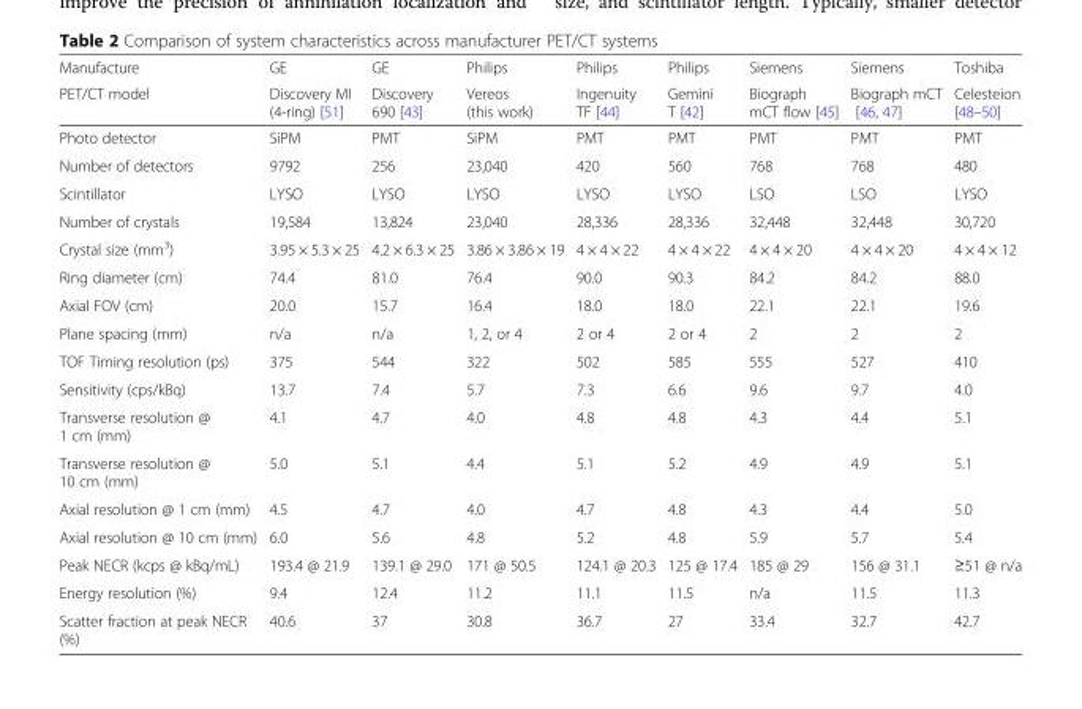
<table><thead><tr><td rowspan="2">Manufacture PET/CT model</td><td rowspan="2">GE Discovery MI (4-ring) [51]</td><td rowspan="2">GE Discovery 690 [43]</td><td rowspan="2">Philips Vereos (this work)</td><td rowspan="2">Philips Ingenuity TF [44]</td><td rowspan="2">Philips Gemini T [42]</td><td rowspan="2">Siemens Biograph mCT flow [45]</td><td rowspan="2">Siemens Biograph mCT [46, 47]</td><td rowspan="2">Toshiba Celesteion [48–50]</td></tr><tr></tr></thead><tbody><tr><td>Photo detector</td><td>SiPM</td><td>PMT</td><td>SiPM</td><td>PMT</td><td>PMT</td><td>PMT</td><td>PMT</td><td>PMT</td></tr><tr><td>Number of detectors</td><td>9792</td><td>256</td><td>23,040</td><td>420</td><td>560</td><td>768</td><td>768</td><td>480</td></tr><tr><td>Scintillator</td><td>LYSO</td><td>LYSO</td><td>LYSO</td><td>LYSO</td><td>LYSO</td><td>LSO</td><td>LSO</td><td>LYSO</td></tr><tr><td>Number of crystals</td><td>19,584</td><td>13,824</td><td>23,040</td><td>28,336</td><td>28,336</td><td>32,448</td><td>32,448</td><td>30,720</td></tr><tr><td>Crystal size (mm<sup>3</sup>)</td><td>3.95 × 5.3 × 25</td><td>4.2 × 6.3 × 25</td><td>3.86 × 3.86 × 19</td><td>4 × 4 × 22</td><td>4 × 4 × 22</td><td>4 × 4 × 20</td><td>4 × 4 × 20</td><td>4 × 4 × 12</td></tr><tr><td>Ring diameter (cm)</td><td>74.4</td><td>81.0</td><td>76.4</td><td>90.0</td><td>90.3</td><td>84.2</td><td>84.2</td><td>88.0</td></tr><tr><td>Axial FOV (cm)</td><td>20.0</td><td>15.7</td><td>16.4</td><td>18.0</td><td>18.0</td><td>22.1</td><td>22.1</td><td>19.6</td></tr><tr><td>Plane spacing (mm)</td><td>n/a</td><td>n/a</td><td>1, 2, or 4</td><td>2 or 4</td><td>2 or 4</td><td>2</td><td>2</td><td>2</td></tr><tr><td>TOF Timing resolution (ps)</td><td>375</td><td>544</td><td>322</td><td>502</td><td>585</td><td>555</td><td>527</td><td>410</td></tr><tr><td>Sensitivity (cps/kBq)</td><td>13.7</td><td>7.4</td><td>5.7</td><td>7.3</td><td>6.6</td><td>9.6</td><td>9.7</td><td>4.0</td></tr><tr><td>Transverse resolution @ 1 cm (mm)</td><td>4.1</td><td>4.7</td><td>4.0</td><td>4.8</td><td>4.8</td><td>4.3</td><td>4.4</td><td>5.1</td></tr><tr><td>Transverse resolution @ 10 cm (mm)</td><td>5.0</td><td>5.1</td><td>4.4</td><td>5.1</td><td>5.2</td><td>4.9</td><td>4.9</td><td>5.1</td></tr><tr><td>Axial resolution @ 1 cm (mm)</td><td>4.5</td><td>4.7</td><td>4.0</td><td>4.7</td><td>4.8</td><td>4.3</td><td>4.4</td><td>5.0</td></tr><tr><td>Axial resolution @ 10 cm (mm)</td><td>6.0</td><td>5.6</td><td>4.8</td><td>5.2</td><td>4.8</td><td>5.9</td><td>5.7</td><td>5.4</td></tr><tr><td>Peak NECR (kcps @ kBq/mL)</td><td>193.4 @ 21.9</td><td>139.1 @ 29.0</td><td>171 @ 50.5</td><td>124.1 @ 20.3</td><td>125 @ 17.4</td><td>185 @ 29</td><td>156 @ 31.1</td><td>≥51 @ n/a</td></tr><tr><td>Energy resolution (%)</td><td>9.4</td><td>12.4</td><td>11.2</td><td>11.1</td><td>11.5</td><td>n/a</td><td>11.5</td><td>11.3</td></tr><tr><td>Scatter fraction at peak NECR (%)</td><td>40.6</td><td>37</td><td>30.8</td><td>36.7</td><td>27</td><td>33.4</td><td>32.7</td><td>42.7</td></tr></tbody></table>